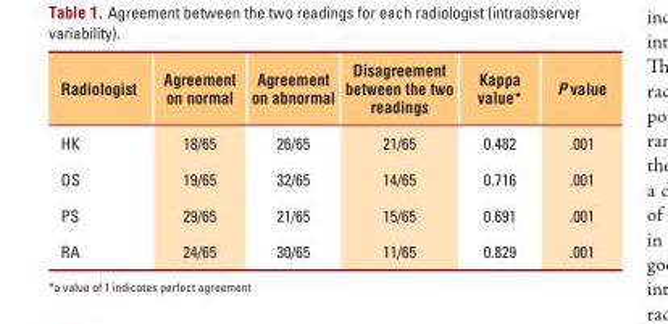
<table><thead><tr><td>Radiologist</td><td>Agreement on normal</td><td>Agreement on abnormal</td><td>Disagreement between the two readings</td><td>Kappa value*</td><td>P value</td></tr></thead><tbody><tr><td>HK</td><td>18/65</td><td>26/65</td><td>21/65</td><td>0.482</td><td>.001</td></tr><tr><td>OS</td><td>19/65</td><td>32/65</td><td>14/65</td><td>0.716</td><td>.001</td></tr><tr><td>PS</td><td>29/65</td><td>21/65</td><td>15/65</td><td>0.691</td><td>.001</td></tr><tr><td>RA</td><td>24/65</td><td>30/65</td><td>11/65</td><td>0.829</td><td>.001</td></tr></tbody></table>